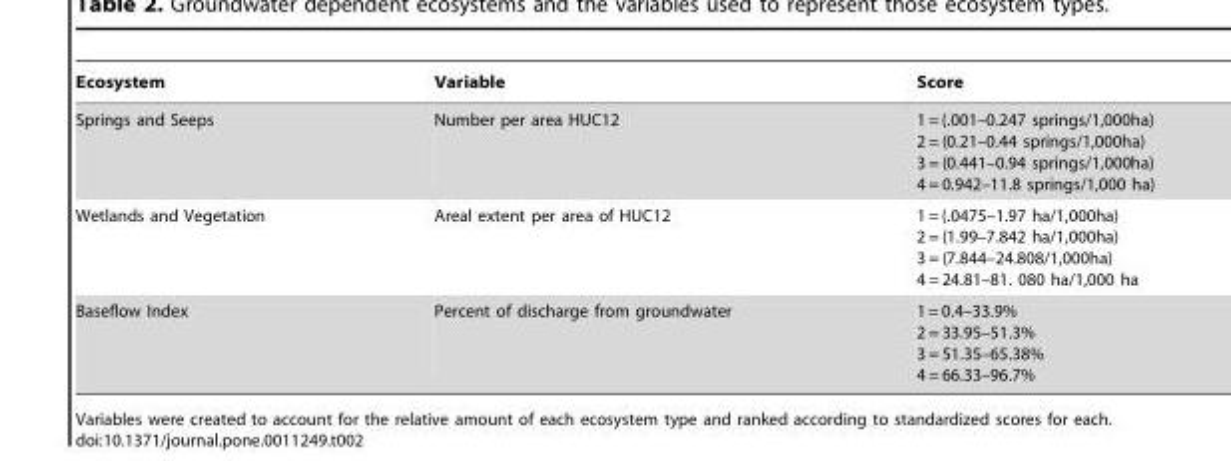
<table><thead><tr><td>Ecosystem</td><td>Variable</td><td>Score</td></tr></thead><tbody><tr><td>Springs and Seeps</td><td>Number per area HUC12</td><td>1 = (.001–0.247 springs/1,000ha) 2 = (0.21–0.44 springs/1,000ha) 3 = (0.441–0.94 springs/1,000ha) 4 = 0.942–11.8 springs/1,000 ha)</td></tr><tr><td>Wetlands and Vegetation</td><td>Areal extent per area of HUC12</td><td>1 = (.0475–1.97 ha/1,000ha) 2 = (1.99–7.842 ha/1,000ha) 3 = (7.844–24.808/1,000ha) 4 = 24.81–81. 080 ha/1,000 ha</td></tr><tr><td>Baseflow Index</td><td>Percent of discharge from groundwater</td><td>1 = 0.4–33.9% 2 = 33.95–51.3% 3 = 51.35–65.38% 4 = 66.33–96.7%</td></tr></tbody></table>